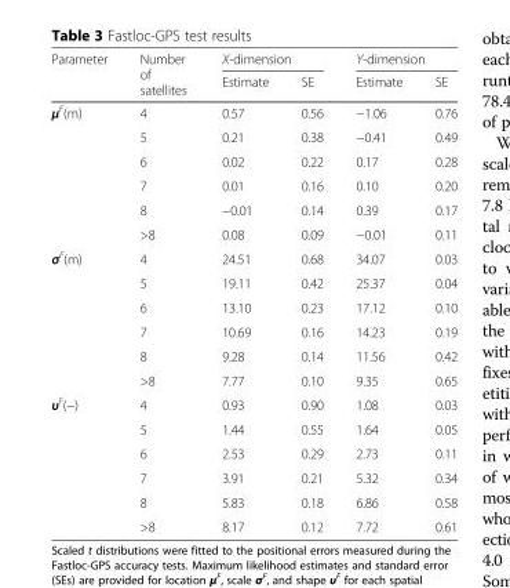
<table><thead><tr><td rowspan="2">Parameter</td><td rowspan="2">Number of satellites</td><td colspan="2">X-dimension</td><td colspan="2">Y-dimension</td></tr><tr><td>Estimate</td><td>SE</td><td>Estimate</td><td>SE</td></tr></thead><tbody><tr><td rowspan="6">μ<sup>F</sup>(m)</td><td>4</td><td>0.57</td><td>0.56</td><td>−1.06</td><td>0.76</td></tr><tr><td>5</td><td>0.21</td><td>0.38</td><td>−0.41</td><td>0.49</td></tr><tr><td>6</td><td>0.02</td><td>0.22</td><td>0.17</td><td>0.28</td></tr><tr><td>7</td><td>0.01</td><td>0.16</td><td>0.10</td><td>0.20</td></tr><tr><td>8</td><td>−0.01</td><td>0.14</td><td>0.39</td><td>0.17</td></tr><tr><td>&gt;8</td><td>0.08</td><td>0.09</td><td>−0.01</td><td>0.11</td></tr><tr><td rowspan="6">σ<sup>F</sup>(m)</td><td>4</td><td>24.51</td><td>0.68</td><td>34.07</td><td>0.03</td></tr><tr><td>5</td><td>19.11</td><td>0.42</td><td>25.37</td><td>0.04</td></tr><tr><td>6</td><td>13.10</td><td>0.23</td><td>17.12</td><td>0.10</td></tr><tr><td>7</td><td>10.69</td><td>0.16</td><td>14.23</td><td>0.19</td></tr><tr><td>8</td><td>9.28</td><td>0.14</td><td>11.56</td><td>0.42</td></tr><tr><td>&gt;8</td><td>7.77</td><td>0.10</td><td>9.35</td><td>0.65</td></tr><tr><td rowspan="6">υ<sup>F</sup>(−)</td><td>4</td><td>0.93</td><td>0.90</td><td>1.08</td><td>0.03</td></tr><tr><td>5</td><td>1.44</td><td>0.55</td><td>1.64</td><td>0.05</td></tr><tr><td>6</td><td>2.53</td><td>0.29</td><td>2.73</td><td>0.11</td></tr><tr><td>7</td><td>3.91</td><td>0.21</td><td>5.32</td><td>0.34</td></tr><tr><td>8</td><td>5.83</td><td>0.18</td><td>6.86</td><td>0.58</td></tr><tr><td>&gt;8</td><td>8.17</td><td>0.12</td><td>7.72</td><td>0.61</td></tr></tbody></table>